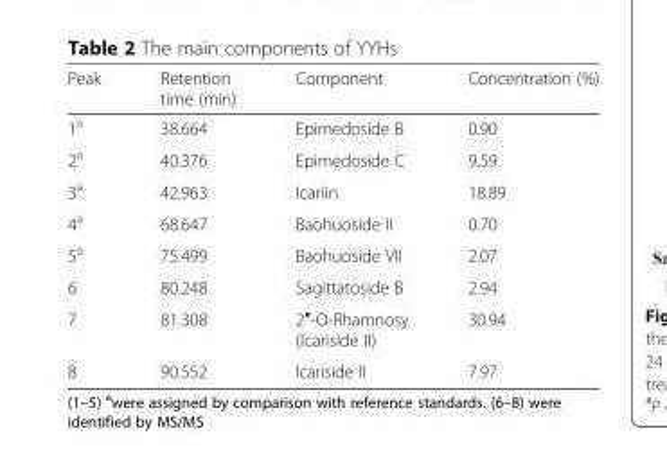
<table><thead><tr><td>Peak</td><td>Retention time (min)</td><td>Component</td><td>Concentration (%)</td></tr></thead><tbody><tr><td>1<sup>a</sup></td><td>38.664</td><td>Epimedoside B</td><td>0.90</td></tr><tr><td>2<sup>a</sup></td><td>40.376</td><td>Epimedoside C</td><td>9.59</td></tr><tr><td>3<sup>a</sup></td><td>42.963</td><td>Icariin</td><td>18.89</td></tr><tr><td>4<sup>a</sup></td><td>68.647</td><td>Baohuoside II</td><td>0.70</td></tr><tr><td>5<sup>a</sup></td><td>75.499</td><td>Baohuoside VII</td><td>2.07</td></tr><tr><td>6</td><td>80.248</td><td>Sagittatoside B</td><td>2.94</td></tr><tr><td>7</td><td>81.308</td><td>2″-O-Rhamnosy (Icariside II)</td><td>30.94</td></tr><tr><td>8</td><td>90.552</td><td>Icariside II</td><td>7.97</td></tr></tbody></table>